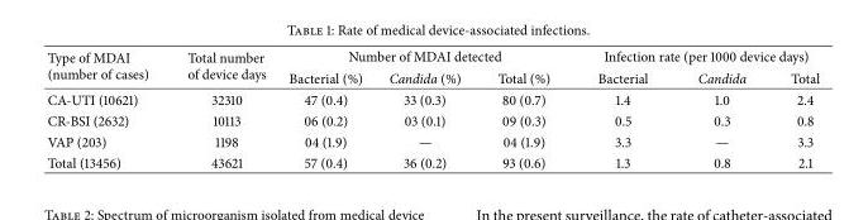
<table><thead><tr><td rowspan="2">Type of MDAI (number of cases)</td><td rowspan="2">Total number of device days</td><td colspan="3">Number of MDAI detected</td><td colspan="3">Infection rate (per 1000 device days)</td></tr><tr><td>Bacterial (%)</td><td>Candida (%)</td><td>Total (%)</td><td>Bacterial</td><td>Candida</td><td>Total</td></tr></thead><tbody><tr><td>CA-UTI (10621)</td><td>32310</td><td>47 (0.4)</td><td>33 (0.3)</td><td>80 (0.7)</td><td>1.4</td><td>1.0</td><td>2.4</td></tr><tr><td>CR-BSI (2632)</td><td>10113</td><td>06 (0.2)</td><td>03 (0.1)</td><td>09 (0.3)</td><td>0.5</td><td>0.3</td><td>0.8</td></tr><tr><td>VAP (203)</td><td>1198</td><td>04 (1.9)</td><td>—</td><td>04 (1.9)</td><td>3.3</td><td>—</td><td>3.3</td></tr><tr><td>Total (13456)</td><td>43621</td><td>57 (0.4)</td><td>36 (0.2)</td><td>93 (0.6)</td><td>1.3</td><td>0.8</td><td>2.1</td></tr></tbody></table>